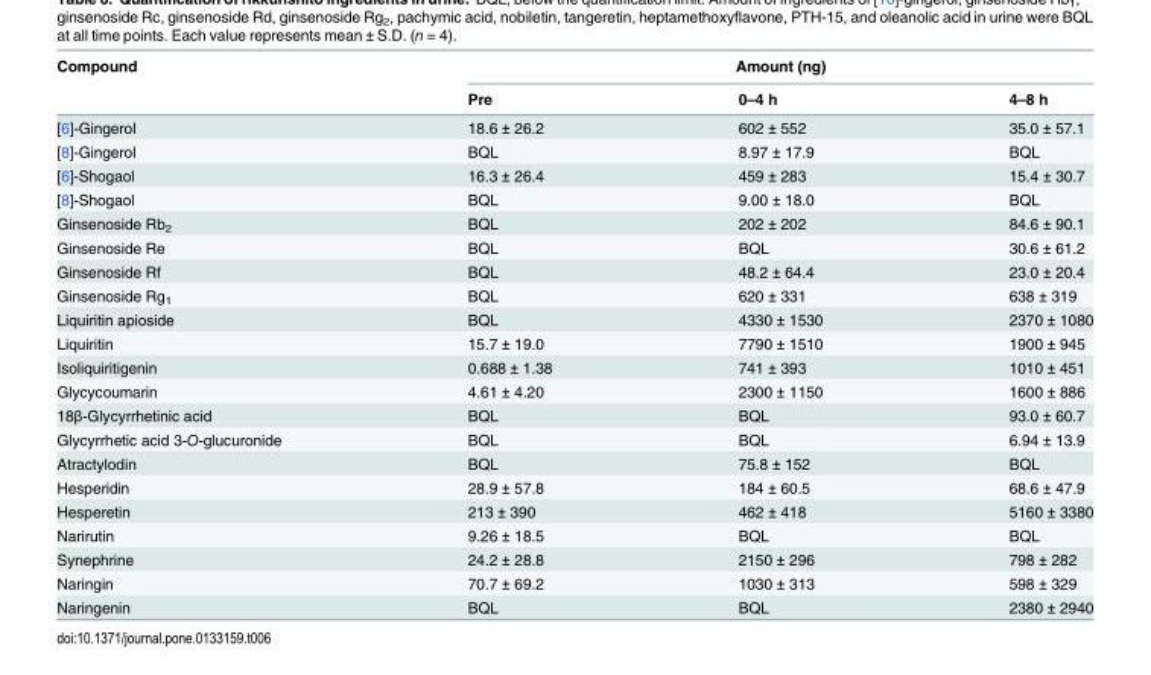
<table><thead><tr><td rowspan="2">Compound</td><td colspan="3">Amount (ng)</td></tr><tr><td>Pre</td><td>0–4 h</td><td>4–8 h</td></tr></thead><tbody><tr><td>[6]-Gingerol</td><td>18.6 ± 26.2</td><td>602 ± 552</td><td>35.0 ± 57.1</td></tr><tr><td>[8]-Gingerol</td><td>BQL</td><td>8.97 ± 17.9</td><td>BQL</td></tr><tr><td>[6]-Shogaol</td><td>16.3 ± 26.4</td><td>459 ± 283</td><td>15.4 ± 30.7</td></tr><tr><td>[8]-Shogaol</td><td>BQL</td><td>9.00 ± 18.0</td><td>BQL</td></tr><tr><td>Ginsenoside Rb<sub>2</sub></td><td>BQL</td><td>202 ± 202</td><td>84.6 ± 90.1</td></tr><tr><td>Ginsenoside Re</td><td>BQL</td><td>BQL</td><td>30.6 ± 61.2</td></tr><tr><td>Ginsenoside Rf</td><td>BQL</td><td>48.2 ± 64.4</td><td>23.0 ± 20.4</td></tr><tr><td>Ginsenoside Rg<sub>1</sub></td><td>BQL</td><td>620 ± 331</td><td>638 ± 319</td></tr><tr><td>Liquiritin apioside</td><td>BQL</td><td>4330 ± 1530</td><td>2370 ± 1080</td></tr><tr><td>Liquiritin</td><td>15.7 ± 19.0</td><td>7790 ± 1510</td><td>1900 ± 945</td></tr><tr><td>Isoliquiritigenin</td><td>0.688 ± 1.38</td><td>741 ± 393</td><td>1010 ± 451</td></tr><tr><td>Glycycoumarin</td><td>4.61 ± 4.20</td><td>2300 ± 1150</td><td>1600 ± 886</td></tr><tr><td>18β-Glycyrrhetinic acid</td><td>BQL</td><td>BQL</td><td>93.0 ± 60.7</td></tr><tr><td>Glycyrrhetic acid 3-O-glucuronide</td><td>BQL</td><td>BQL</td><td>6.94 ± 13.9</td></tr><tr><td>Atractylodin</td><td>BQL</td><td>75.8 ± 152</td><td>BQL</td></tr><tr><td>Hesperidin</td><td>28.9 ± 57.8</td><td>184 ± 60.5</td><td>68.6 ± 47.9</td></tr><tr><td>Hesperetin</td><td>213 ± 390</td><td>462 ± 418</td><td>5160 ± 3380</td></tr><tr><td>Narirutin</td><td>9.26 ± 18.5</td><td>BQL</td><td>BQL</td></tr><tr><td>Synephrine</td><td>24.2 ± 28.8</td><td>2150 ± 296</td><td>798 ± 282</td></tr><tr><td>Naringin</td><td>70.7 ± 69.2</td><td>1030 ± 313</td><td>598 ± 329</td></tr><tr><td>Naringenin</td><td>BQL</td><td>BQL</td><td>2380 ± 2940</td></tr></tbody></table>